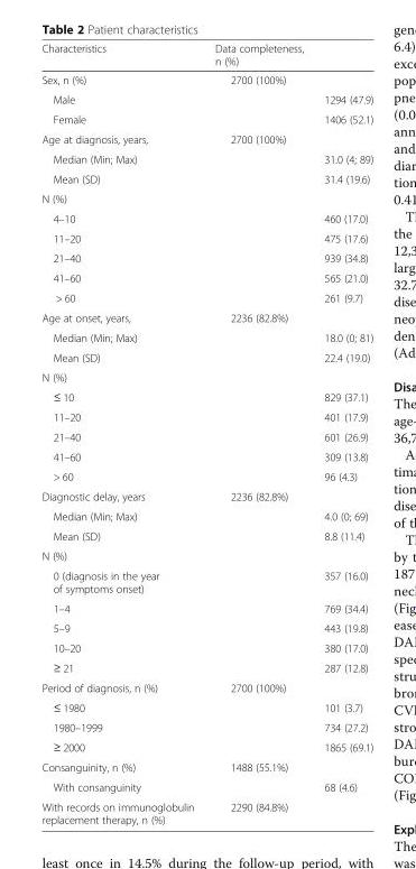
<table><thead><tr><td>Characteristics</td><td>Data completeness, n (%)</td><td></td></tr></thead><tbody><tr><td>Sex, n (%)</td><td>2700 (100%)</td><td></td></tr><tr><td>Male</td><td></td><td>1294 (47.9)</td></tr><tr><td>Female</td><td></td><td>1406 (52.1)</td></tr><tr><td>Age at diagnosis, years,</td><td>2700 (100%)</td><td></td></tr><tr><td>Median (Min; Max)</td><td></td><td>31.0 (4; 89)</td></tr><tr><td>Mean (SD)</td><td></td><td>31.4 (19.6)</td></tr><tr><td colspan="3">N (%)</td></tr><tr><td>4–10</td><td></td><td>460 (17.0)</td></tr><tr><td>11–20</td><td></td><td>475 (17.6)</td></tr><tr><td>21–40</td><td></td><td>939 (34.8)</td></tr><tr><td>41–60</td><td></td><td>565 (21.0)</td></tr><tr><td>&gt; 60</td><td></td><td>261 (9.7)</td></tr><tr><td>Age at onset, years,</td><td>2236 (82.8%)</td><td></td></tr><tr><td>Median (Min; Max)</td><td></td><td>18.0 (0; 81)</td></tr><tr><td>Mean (SD)</td><td></td><td>22.4 (19.0)</td></tr><tr><td colspan="3">N (%)</td></tr><tr><td>≤ 10</td><td></td><td>829 (37.1)</td></tr><tr><td>11–20</td><td></td><td>401 (17.9)</td></tr><tr><td>21–40</td><td></td><td>601 (26.9)</td></tr><tr><td>41–60</td><td></td><td>309 (13.8)</td></tr><tr><td>&gt; 60</td><td></td><td>96 (4.3)</td></tr><tr><td>Diagnostic delay, years</td><td>2236 (82.8%)</td><td></td></tr><tr><td>Median (Min; Max)</td><td></td><td>4.0 (0; 69)</td></tr><tr><td>Mean (SD)</td><td></td><td>8.8 (11.4)</td></tr><tr><td colspan="3">N (%)</td></tr><tr><td>0 (diagnosis in the year of symptoms onset)</td><td></td><td>357 (16.0)</td></tr><tr><td>1–4</td><td></td><td>769 (34.4)</td></tr><tr><td>5–9</td><td></td><td>443 (19.8)</td></tr><tr><td>10–20</td><td></td><td>380 (17.0)</td></tr><tr><td>≥ 21</td><td></td><td>287 (12.8)</td></tr><tr><td>Period of diagnosis, n (%)</td><td>2700 (100%)</td><td></td></tr><tr><td>≤ 1980</td><td></td><td>101 (3.7)</td></tr><tr><td>1980–1999</td><td></td><td>734 (27.2)</td></tr><tr><td>≥ 2000</td><td></td><td>1865 (69.1)</td></tr><tr><td>Consanguinity, n (%)</td><td>1488 (55.1%)</td><td></td></tr><tr><td>With consanguinity</td><td></td><td>68 (4.6)</td></tr><tr><td>With records on immunoglobulin replacement therapy, n (%)</td><td>2290 (84.8%)</td><td></td></tr></tbody></table>